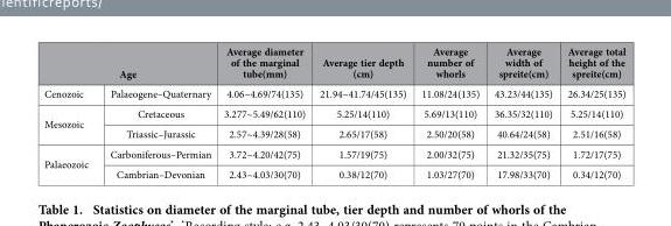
<table><thead><tr><td colspan="2">Age</td><td rowspan="2">Average diameter of the marginal tube(mm) 4.06~4.69/74(135)</td><td rowspan="2">Average tier depth (cm) 21.94~41.74/45(135)</td><td rowspan="2">Average number of whorls 11.08/24(135)</td><td rowspan="2">Average width of spreite(cm) 43.23/44(135)</td><td rowspan="2">Average total height of the spreite(cm) 26.34/25(135)</td></tr><tr><td>Cenozoic</td><td>Palaeogene–Quaternary</td></tr></thead><tbody><tr><td rowspan="2">Mesozoic</td><td>Cretaceous</td><td>3.277~5.49/62(110)</td><td>5.25/14(110)</td><td>5.69/13(110)</td><td>36.35/32(110)</td><td>5.25/14(110)</td></tr><tr><td>Triassic–Jurassic</td><td>2.57~4.39/28(58)</td><td>2.65/17(58)</td><td>2.50/20(58)</td><td>40.64/24(58)</td><td>2.51/16(58)</td></tr><tr><td rowspan="2">Palaeozoic</td><td>Carboniferous–Permian</td><td>3.72~4.20/42(75)</td><td>1.57/19(75)</td><td>2.00/32(75)</td><td>21.32/35(75)</td><td>1.72/17(75)</td></tr><tr><td>Cambrian–Devonian</td><td>2.43~4.03/30(70)</td><td>0.38/12(70)</td><td>1.03/27(70)</td><td>17.98/33(70)</td><td>0.34/12(70)</td></tr></tbody></table>